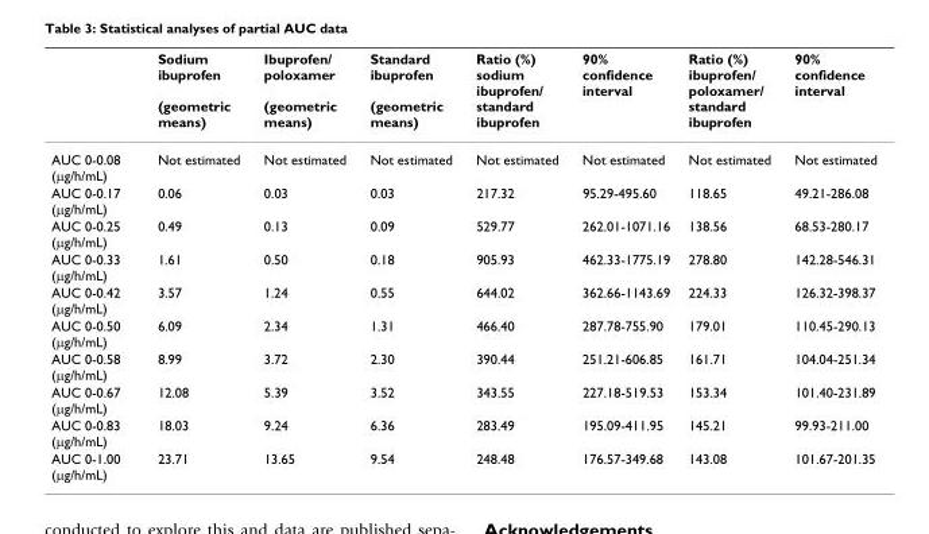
<table><thead><tr><td></td><td>Sodium ibuprofen (geometric means)</td><td>Ibuprofen/ poloxamer (geometric means)</td><td>Standard ibuprofen (geometric means)</td><td>Ratio (%) sodium ibuprofen/ standard ibuprofen</td><td>90% confidence interval</td><td>Ratio (%) ibuprofen/ poloxamer/ standard ibuprofen</td><td>90% confidence interval</td></tr></thead><tbody><tr><td>AUC 0-0.08 (μg/h/mL)</td><td>Not estimated</td><td>Not estimated</td><td>Not estimated</td><td>Not estimated</td><td>Not estimated</td><td>Not estimated</td><td>Not estimated</td></tr><tr><td>AUC 0-0.17 (μg/h/mL)</td><td>0.06</td><td>0.03</td><td>0.03</td><td>217.32</td><td>95.29-495.60</td><td>118.65</td><td>49.21-286.08</td></tr><tr><td>AUC 0-0.25 (μg/h/mL)</td><td>0.49</td><td>0.13</td><td>0.09</td><td>529.77</td><td>262.01-1071.16</td><td>138.56</td><td>68.53-280.17</td></tr><tr><td>AUC 0-0.33 (μg/h/mL)</td><td>1.61</td><td>0.50</td><td>0.18</td><td>905.93</td><td>462.33-1775.19</td><td>278.80</td><td>142.28-546.31</td></tr><tr><td>AUC 0-0.42 (μg/h/mL)</td><td>3.57</td><td>1.24</td><td>0.55</td><td>644.02</td><td>362.66-1143.69</td><td>224.33</td><td>126.32-398.37</td></tr><tr><td>AUC 0-0.50 (μg/h/mL)</td><td>6.09</td><td>2.34</td><td>1.31</td><td>466.40</td><td>287.78-755.90</td><td>179.01</td><td>110.45-290.13</td></tr><tr><td>AUC 0-0.58 (μg/h/mL)</td><td>8.99</td><td>3.72</td><td>2.30</td><td>390.44</td><td>251.21-606.85</td><td>161.71</td><td>104.04-251.34</td></tr><tr><td>AUC 0-0.67 (μg/h/mL)</td><td>12.08</td><td>5.39</td><td>3.52</td><td>343.55</td><td>227.18-519.53</td><td>153.34</td><td>101.40-231.89</td></tr><tr><td>AUC 0-0.83 (μg/h/mL)</td><td>18.03</td><td>9.24</td><td>6.36</td><td>283.49</td><td>195.09-411.95</td><td>145.21</td><td>99.93-211.00</td></tr><tr><td>AUC 0-1.00 (μg/h/mL)</td><td>23.71</td><td>13.65</td><td>9.54</td><td>248.48</td><td>176.57-349.68</td><td>143.08</td><td>101.67-201.35</td></tr></tbody></table>